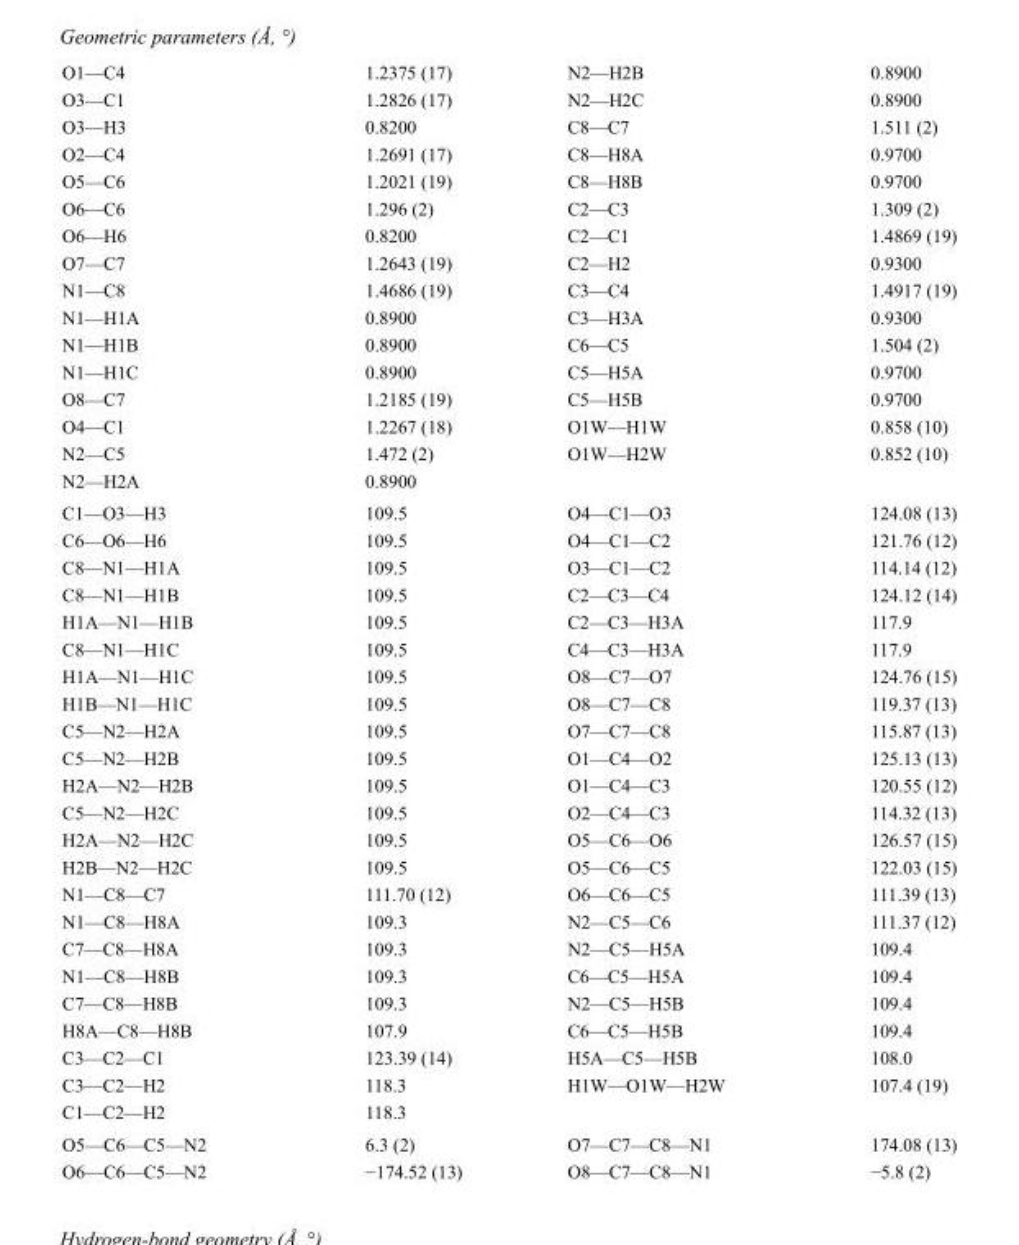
<table><tbody><tr><td>O1—C4</td><td>1.2375 (17)</td><td>N2—H2B</td><td>0.8900</td></tr><tr><td>O3—C1</td><td>1.2826 (17)</td><td>N2—H2C</td><td>0.8900</td></tr><tr><td>O3—H3</td><td>0.8200</td><td>C8—C7</td><td>1.511 (2)</td></tr><tr><td>O2—C4</td><td>1.2691 (17)</td><td>C8—H8A</td><td>0.9700</td></tr><tr><td>O5—C6</td><td>1.2021 (19)</td><td>C8—H8B</td><td>0.9700</td></tr><tr><td>O6—C6</td><td>1.296 (2)</td><td>C2—C3</td><td>1.309 (2)</td></tr><tr><td>O6—H6</td><td>0.8200</td><td>C2—C1</td><td>1.4869 (19)</td></tr><tr><td>O7—C7</td><td>1.2643 (19)</td><td>C2—H2</td><td>0.9300</td></tr><tr><td>N1—C8</td><td>1.4686 (19)</td><td>C3—C4</td><td>1.4917 (19)</td></tr><tr><td>N1—H1A</td><td>0.8900</td><td>C3—H3A</td><td>0.9300</td></tr><tr><td>N1—H1B</td><td>0.8900</td><td>C6—C5</td><td>1.504 (2)</td></tr><tr><td>N1—H1C</td><td>0.8900</td><td>C5—H5A</td><td>0.9700</td></tr><tr><td>O8—C7</td><td>1.2185 (19)</td><td>C5—H5B</td><td>0.9700</td></tr><tr><td>O4—C1</td><td>1.2267 (18)</td><td>O1W—H1W</td><td>0.858 (10)</td></tr><tr><td>N2—C5</td><td>1.472 (2)</td><td>O1W—H2W</td><td>0.852 (10)</td></tr><tr><td>N2—H2A</td><td>0.8900</td><td></td><td></td></tr><tr><td>C1—O3—H3</td><td>109.5</td><td>O4—C1—O3</td><td>124.08 (13)</td></tr><tr><td>C6—O6—H6</td><td>109.5</td><td>O4—C1—C2</td><td>121.76 (12)</td></tr><tr><td>C8—N1—H1A</td><td>109.5</td><td>O3—C1—C2</td><td>114.14 (12)</td></tr><tr><td>C8—N1—H1B</td><td>109.5</td><td>C2—C3—C4</td><td>124.12 (14)</td></tr><tr><td>H1A—N1—H1B</td><td>109.5</td><td>C2—C3—H3A</td><td>117.9</td></tr><tr><td>C8—N1—H1C</td><td>109.5</td><td>C4—C3—H3A</td><td>117.9</td></tr><tr><td>H1A—N1—H1C</td><td>109.5</td><td>O8—C7—O7</td><td>124.76 (15)</td></tr><tr><td>H1B—N1—H1C</td><td>109.5</td><td>O8—C7—C8</td><td>119.37 (13)</td></tr><tr><td>C5—N2—H2A</td><td>109.5</td><td>O7—C7—C8</td><td>115.87 (13)</td></tr><tr><td>C5—N2—H2B</td><td>109.5</td><td>O1—C4—O2</td><td>125.13 (13)</td></tr><tr><td>H2A—N2—H2B</td><td>109.5</td><td>O1—C4—C3</td><td>120.55 (12)</td></tr><tr><td>C5—N2—H2C</td><td>109.5</td><td>O2—C4—C3</td><td>114.32 (13)</td></tr><tr><td>H2A—N2—H2C</td><td>109.5</td><td>O5—C6—O6</td><td>126.57 (15)</td></tr><tr><td>H2B—N2—H2C</td><td>109.5</td><td>O5—C6—C5</td><td>122.03 (15)</td></tr><tr><td>N1—C8—C7</td><td>111.70 (12)</td><td>O6—C6—C5</td><td>111.39 (13)</td></tr><tr><td>N1—C8—H8A</td><td>109.3</td><td>N2—C5—C6</td><td>111.37 (12)</td></tr><tr><td>C7—C8—H8A</td><td>109.3</td><td>N2—C5—H5A</td><td>109.4</td></tr><tr><td>N1—C8—H8B</td><td>109.3</td><td>C6—C5—H5A</td><td>109.4</td></tr><tr><td>C7—C8—H8B</td><td>109.3</td><td>N2—C5—H5B</td><td>109.4</td></tr><tr><td>H8A—C8—H8B</td><td>107.9</td><td>C6—C5—H5B</td><td>109.4</td></tr><tr><td>C3—C2—C1</td><td>123.39 (14)</td><td>H5A—C5—H5B</td><td>108.0</td></tr><tr><td>C3—C2—H2</td><td>118.3</td><td>H1W—O1W—H2W</td><td>107.4 (19)</td></tr><tr><td>C1—C2—H2</td><td>118.3</td><td></td><td></td></tr><tr><td>O5—C6—C5—N2</td><td>6.3 (2)</td><td>O7—C7—C8—N1</td><td>174.08 (13)</td></tr><tr><td>O6—C6—C5—N2</td><td>−174.52 (13)</td><td>O8—C7—C8—N1</td><td>−5.8 (2)</td></tr></tbody></table>